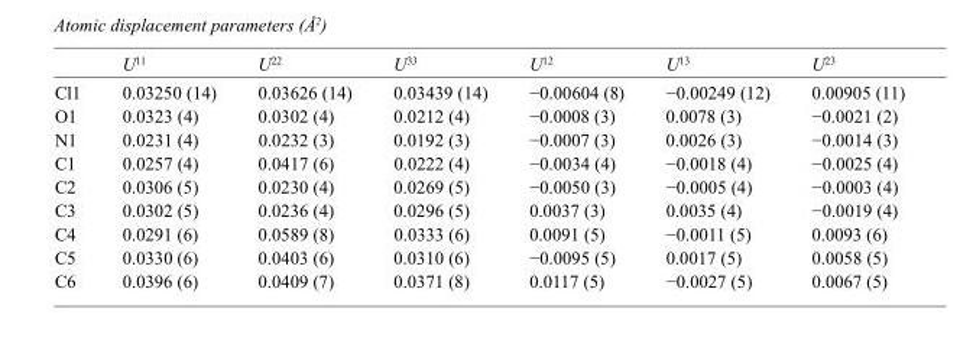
<table><thead><tr><td></td><td>U<sup>11</sup></td><td>U<sup>22</sup></td><td>U<sup>33</sup></td><td>U<sup>12</sup></td><td>U<sup>13</sup></td><td>U<sup>23</sup></td></tr></thead><tbody><tr><td>Cl1</td><td>0.03250 (14)</td><td>0.03626 (14)</td><td>0.03439 (14)</td><td>−0.00604 (8)</td><td>−0.00249 (12)</td><td>0.00905 (11)</td></tr><tr><td>O1</td><td>0.0323 (4)</td><td>0.0302 (4)</td><td>0.0212 (4)</td><td>−0.0008 (3)</td><td>0.0078 (3)</td><td>−0.0021 (2)</td></tr><tr><td>N1</td><td>0.0231 (4)</td><td>0.0232 (3)</td><td>0.0192 (3)</td><td>−0.0007 (3)</td><td>0.0026 (3)</td><td>−0.0014 (3)</td></tr><tr><td>C1</td><td>0.0257 (4)</td><td>0.0417 (6)</td><td>0.0222 (4)</td><td>−0.0034 (4)</td><td>−0.0018 (4)</td><td>−0.0025 (4)</td></tr><tr><td>C2</td><td>0.0306 (5)</td><td>0.0230 (4)</td><td>0.0269 (5)</td><td>−0.0050 (3)</td><td>−0.0005 (4)</td><td>−0.0003 (4)</td></tr><tr><td>C3</td><td>0.0302 (5)</td><td>0.0236 (4)</td><td>0.0296 (5)</td><td>0.0037 (3)</td><td>0.0035 (4)</td><td>−0.0019 (4)</td></tr><tr><td>C4</td><td>0.0291 (6)</td><td>0.0589 (8)</td><td>0.0333 (6)</td><td>0.0091 (5)</td><td>−0.0011 (5)</td><td>0.0093 (6)</td></tr><tr><td>C5</td><td>0.0330 (6)</td><td>0.0403 (6)</td><td>0.0310 (6)</td><td>−0.0095 (5)</td><td>0.0017 (5)</td><td>0.0058 (5)</td></tr><tr><td>C6</td><td>0.0396 (6)</td><td>0.0409 (7)</td><td>0.0371 (8)</td><td>0.0117 (5)</td><td>−0.0027 (5)</td><td>0.0067 (5)</td></tr></tbody></table>